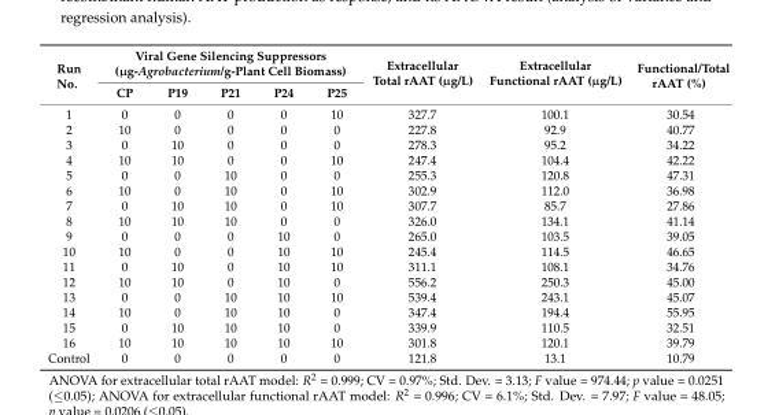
<table><thead><tr><td rowspan="2">Run No.</td><td colspan="5">Viral Gene Silencing Suppressors (µg-Agrobacterium/g-Plant Cell Biomass)</td><td rowspan="2">Extracellular Total rAAT (µg/L)</td><td rowspan="2">Extracellular Functional rAAT (µg/L)</td><td rowspan="2">Functional/Total rAAT (%)</td></tr><tr><td>CP</td><td>P19</td><td>P21</td><td>P24</td><td>P25</td></tr></thead><tbody><tr><td>1</td><td>0</td><td>0</td><td>0</td><td>0</td><td>10</td><td>327.7</td><td>100.1</td><td>30.54</td></tr><tr><td>2</td><td>10</td><td>0</td><td>0</td><td>0</td><td>0</td><td>227.8</td><td>92.9</td><td>40.77</td></tr><tr><td>3</td><td>0</td><td>10</td><td>0</td><td>0</td><td>0</td><td>278.3</td><td>95.2</td><td>34.22</td></tr><tr><td>4</td><td>10</td><td>10</td><td>0</td><td>0</td><td>10</td><td>247.4</td><td>104.4</td><td>42.22</td></tr><tr><td>5</td><td>0</td><td>0</td><td>10</td><td>0</td><td>0</td><td>255.3</td><td>120.8</td><td>47.31</td></tr><tr><td>6</td><td>10</td><td>0</td><td>10</td><td>0</td><td>10</td><td>302.9</td><td>112.0</td><td>36.98</td></tr><tr><td>7</td><td>0</td><td>10</td><td>10</td><td>0</td><td>10</td><td>307.7</td><td>85.7</td><td>27.86</td></tr><tr><td>8</td><td>10</td><td>10</td><td>10</td><td>0</td><td>0</td><td>326.0</td><td>134.1</td><td>41.14</td></tr><tr><td>9</td><td>0</td><td>0</td><td>0</td><td>10</td><td>0</td><td>265.0</td><td>103.5</td><td>39.05</td></tr><tr><td>10</td><td>10</td><td>0</td><td>0</td><td>10</td><td>10</td><td>245.4</td><td>114.5</td><td>46.65</td></tr><tr><td>11</td><td>0</td><td>10</td><td>0</td><td>10</td><td>10</td><td>311.1</td><td>108.1</td><td>34.76</td></tr><tr><td>12</td><td>10</td><td>10</td><td>0</td><td>10</td><td>0</td><td>556.2</td><td>250.3</td><td>45.00</td></tr><tr><td>13</td><td>0</td><td>0</td><td>10</td><td>10</td><td>10</td><td>539.4</td><td>243.1</td><td>45.07</td></tr><tr><td>14</td><td>10</td><td>0</td><td>10</td><td>10</td><td>0</td><td>347.4</td><td>194.4</td><td>55.95</td></tr><tr><td>15</td><td>0</td><td>10</td><td>10</td><td>10</td><td>0</td><td>339.9</td><td>110.5</td><td>32.51</td></tr><tr><td>16</td><td>10</td><td>10</td><td>10</td><td>10</td><td>10</td><td>301.8</td><td>120.1</td><td>39.79</td></tr><tr><td>Control</td><td>0</td><td>0</td><td>0</td><td>0</td><td>0</td><td>121.8</td><td>13.1</td><td>10.79</td></tr></tbody></table>